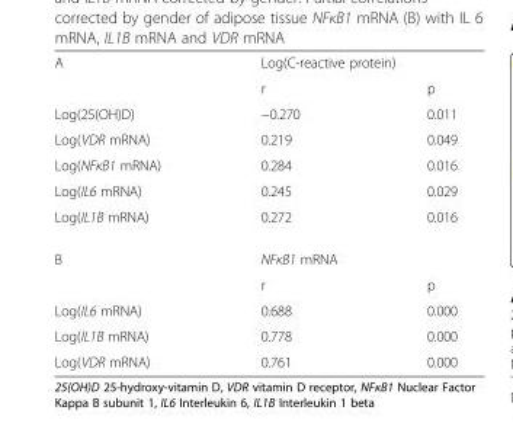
<table><tbody><tr><td rowspan="2">A</td><td colspan="2">Log(C-reactive protein)</td></tr><tr><td>r</td><td>p</td></tr><tr><td>Log(25(OH)D)</td><td>−0.270</td><td>0.011</td></tr><tr><td>Log(VDR mRNA)</td><td>0.219</td><td>0.049</td></tr><tr><td>Log(NFκB1 mRNA)</td><td>0.284</td><td>0.016</td></tr><tr><td>Log(IL6 mRNA)</td><td>0.245</td><td>0.029</td></tr><tr><td>Log(IL1B mRNA)</td><td>0.272</td><td>0.016</td></tr><tr><td rowspan="2">B</td><td colspan="2">NFκB1 mRNA</td></tr><tr><td>r</td><td>p</td></tr><tr><td>Log(IL6 mRNA)</td><td>0.688</td><td>0.000</td></tr><tr><td>Log(IL1B mRNA)</td><td>0.778</td><td>0.000</td></tr><tr><td>Log(VDR mRNA)</td><td>0.761</td><td>0.000</td></tr></tbody></table>